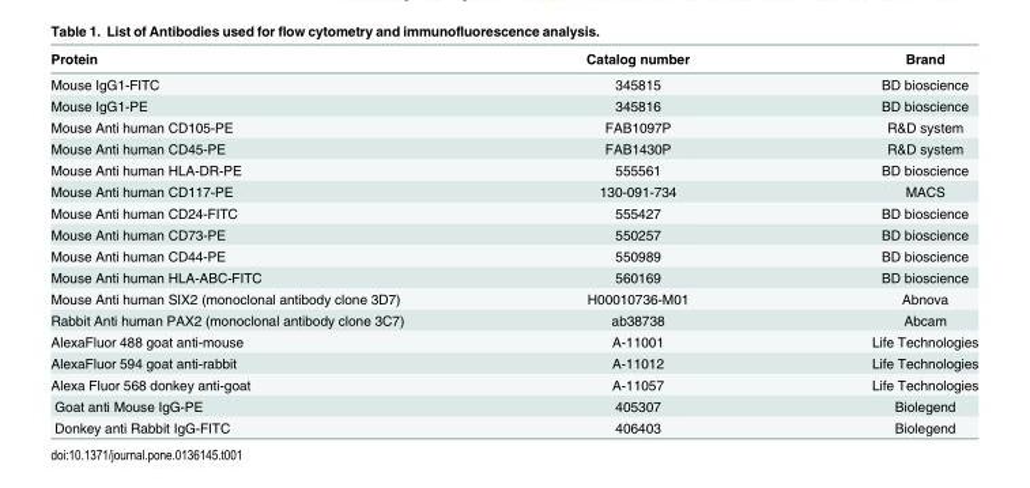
<table><thead><tr><td>Protein</td><td>Catalog number</td><td>Brand</td></tr></thead><tbody><tr><td>Mouse IgG1-FITC</td><td>345815</td><td>BD bioscience</td></tr><tr><td>Mouse IgG1-PE</td><td>345816</td><td>BD bioscience</td></tr><tr><td>Mouse Anti human CD105-PE</td><td>FAB1097P</td><td>R&amp;D system</td></tr><tr><td>Mouse Anti human CD45-PE</td><td>FAB1430P</td><td>R&amp;D system</td></tr><tr><td>Mouse Anti human HLA-DR-PE</td><td>555561</td><td>BD bioscience</td></tr><tr><td>Mouse Anti human CD117-PE</td><td>130-091-734</td><td>MACS</td></tr><tr><td>Mouse Anti human CD24-FITC</td><td>555427</td><td>BD bioscience</td></tr><tr><td>Mouse Anti human CD73-PE</td><td>550257</td><td>BD bioscience</td></tr><tr><td>Mouse Anti human CD44-PE</td><td>550989</td><td>BD bioscience</td></tr><tr><td>Mouse Anti human HLA-ABC-FITC</td><td>560169</td><td>BD bioscience</td></tr><tr><td>Mouse Anti human SIX2 (monoclonal antibody clone 3D7)</td><td>H00010736-M01</td><td>Abnova</td></tr><tr><td>Rabbit Anti human PAX2 (monoclonal antibody clone 3C7)</td><td>ab38738</td><td>Abcam</td></tr><tr><td>AlexaFluor 488 goat anti-mouse</td><td>A-11001</td><td>Life Technologies</td></tr><tr><td>AlexaFluor 594 goat anti-rabbit</td><td>A-11012</td><td>Life Technologies</td></tr><tr><td>Alexa Fluor 568 donkey anti-goat</td><td>A-11057</td><td>Life Technologies</td></tr><tr><td>Goat anti Mouse IgG-PE</td><td>405307</td><td>Biolegend</td></tr><tr><td>Donkey anti Rabbit IgG-FITC</td><td>406403</td><td>Biolegend</td></tr></tbody></table>